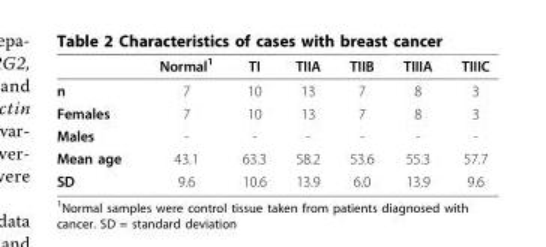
<table><thead><tr><td></td><td>Normal<sup>1</sup></td><td>TI</td><td>TIIA</td><td>TIIB</td><td>TIIIA</td><td>TIIIC</td></tr></thead><tbody><tr><td>n</td><td>7</td><td>10</td><td>13</td><td>7</td><td>8</td><td>3</td></tr><tr><td>Females</td><td>7</td><td>10</td><td>13</td><td>7</td><td>8</td><td>3</td></tr><tr><td>Males</td><td>-</td><td>-</td><td>-</td><td>-</td><td>-</td><td>-</td></tr><tr><td>Mean age</td><td>43.1</td><td>63.3</td><td>58.2</td><td>53.6</td><td>55.3</td><td>57.7</td></tr><tr><td>SD</td><td>9.6</td><td>10.6</td><td>13.9</td><td>6.0</td><td>13.9</td><td>9.6</td></tr></tbody></table>